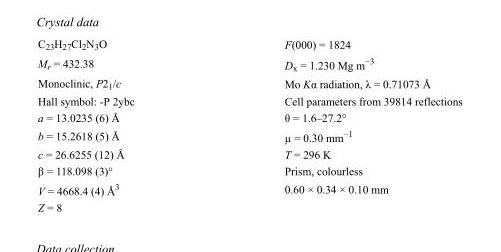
<table><tbody><tr><td>C<sub>23</sub>H<sub>27</sub>Cl<sub>2</sub>N<sub>3</sub>O</td><td>F(000) = 1824</td></tr><tr><td>M<sub>r</sub> = 432.38</td><td>D<sub>x</sub> = 1.230 Mg m<sup>−3</sup></td></tr><tr><td>Monoclinic, P2<sub>1</sub>/c</td><td>Mo Kα radiation, λ = 0.71073 Å</td></tr><tr><td>Hall symbol: -P 2ybc</td><td>Cell parameters from 39814 reflections</td></tr><tr><td>a = 13.0235 (6) Å</td><td>θ = 1.6–27.2°</td></tr><tr><td>b = 15.2618 (5) Å</td><td>µ = 0.30 mm<sup>−1</sup></td></tr><tr><td>c = 26.6255 (12) Å</td><td>T = 296 K</td></tr><tr><td>β = 118.098 (3)°</td><td>Prism, colourless</td></tr><tr><td>V = 4668.4 (4) Å<sup>3</sup></td><td>0.60 × 0.34 × 0.10 mm</td></tr><tr><td>Z = 8</td><td></td></tr></tbody></table>